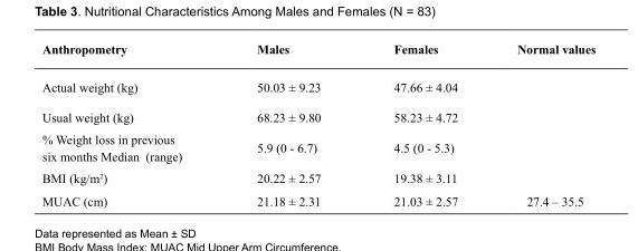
<table><thead><tr><td>Anthropometry</td><td>Males</td><td>Females</td><td>Normal values</td></tr></thead><tbody><tr><td>Actual weight (kg)</td><td>50.03 ± 9.23</td><td>47.66 ± 4.04</td><td></td></tr><tr><td>Usual weight (kg)</td><td>68.23 ± 9.80</td><td>58.23 ± 4.72</td><td></td></tr><tr><td>% Weight loss in previous six months Median (range)</td><td>5.9 (0 - 6.7)</td><td>4.5 (0 - 5.3)</td><td></td></tr><tr><td>BMI (kg/m<sup>2</sup>)</td><td>20.22 ± 2.57</td><td>19.38 ± 3.11</td><td></td></tr><tr><td>MUAC (cm)</td><td>21.18 ± 2.31</td><td>21.03 ± 2.57</td><td>27.4 – 35.5</td></tr></tbody></table>